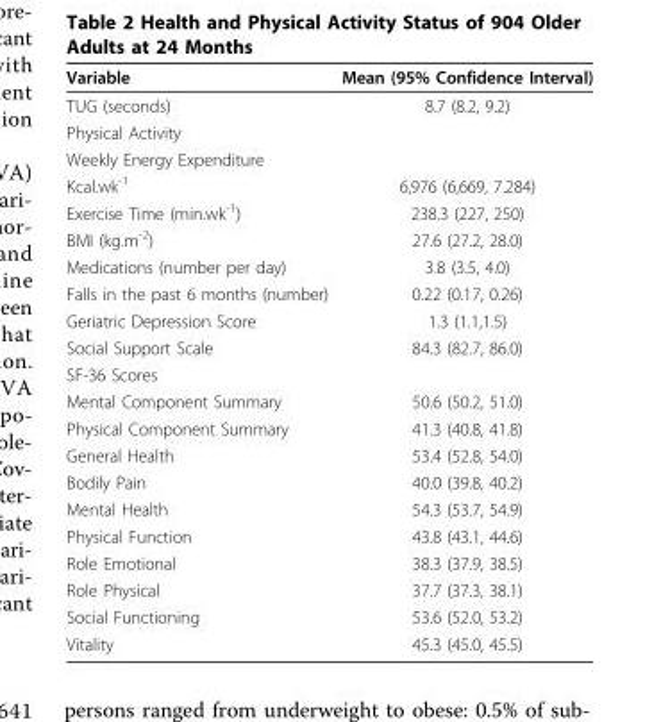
<table><thead><tr><td>Variable</td><td>Mean (95% Confidence Interval)</td></tr></thead><tbody><tr><td>TUG (seconds)</td><td>8.7 (8.2, 9.2)</td></tr><tr><td colspan="2">Physical Activity</td></tr><tr><td colspan="2">Weekly Energy Expenditure</td></tr><tr><td>Kcal.wk<sup>-1</sup></td><td>6,976 (6,669, 7.284)</td></tr><tr><td>Exercise Time (min.wk<sup>-1</sup>)</td><td>238.3 (227, 250)</td></tr><tr><td>BMI (kg.m<sup>-2</sup>)</td><td>27.6 (27.2, 28.0)</td></tr><tr><td>Medications (number per day)</td><td>3.8 (3.5, 4.0)</td></tr><tr><td>Falls in the past 6 months (number)</td><td>0.22 (0.17, 0.26)</td></tr><tr><td>Geriatric Depression Score</td><td>1.3 (1.1,1.5)</td></tr><tr><td>Social Support Scale</td><td>84.3 (82.7, 86.0)</td></tr><tr><td colspan="2">SF-36 Scores</td></tr><tr><td>Mental Component Summary</td><td>50.6 (50.2, 51.0)</td></tr><tr><td>Physical Component Summary</td><td>41.3 (40.8, 41.8)</td></tr><tr><td>General Health</td><td>53.4 (52.8, 54.0)</td></tr><tr><td>Bodily Pain</td><td>40.0 (39.8, 40.2)</td></tr><tr><td>Mental Health</td><td>54.3 (53.7, 54.9)</td></tr><tr><td>Physical Function</td><td>43.8 (43.1, 44.6)</td></tr><tr><td>Role Emotional</td><td>38.3 (37.9, 38.5)</td></tr><tr><td>Role Physical</td><td>37.7 (37.3, 38.1)</td></tr><tr><td>Social Functioning</td><td>53.6 (52.0, 53.2)</td></tr><tr><td>Vitality</td><td>45.3 (45.0, 45.5)</td></tr></tbody></table>